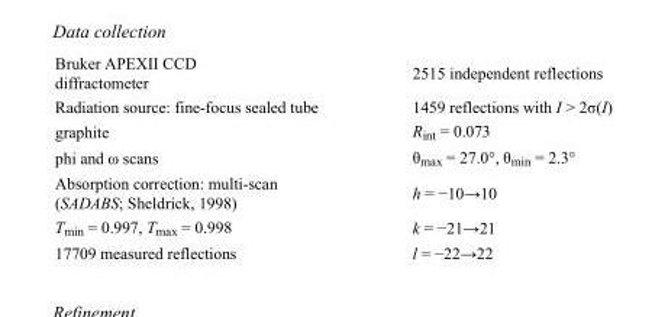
<table><tbody><tr><td>Bruker APEXII CCD diffractometer</td><td>2515 independent reflections</td></tr><tr><td>Radiation source: fine-focus sealed tube</td><td>1459 reflections with I &gt; 2σ(I)</td></tr><tr><td>graphite</td><td>R<sub>int</sub> = 0.073</td></tr><tr><td>phi and ω scans</td><td>θ<sub>max</sub> = 27.0°, θ<sub>min</sub> = 2.3°</td></tr><tr><td>Absorption correction: multi-scan (SADABS; Sheldrick, 1998)</td><td>h = −10→10</td></tr><tr><td>T<sub>min</sub> = 0.997, T<sub>max</sub> = 0.998</td><td>k = −21→21</td></tr><tr><td>17709 measured reflections</td><td>l = −22→22</td></tr></tbody></table>